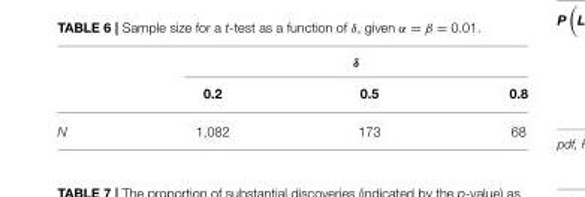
<table><thead><tr><td rowspan="2"></td><td colspan="3">δ</td></tr><tr><td>0.2</td><td>0.5</td><td>0.8</td></tr></thead><tbody><tr><td>N</td><td>1,082</td><td>173</td><td>68</td></tr></tbody></table>